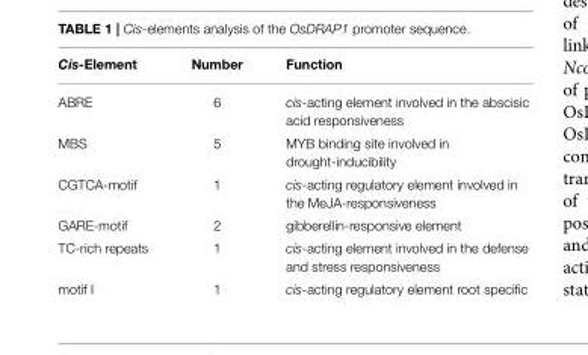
<table><thead><tr><td>Cis-Element</td><td>Number</td><td>Function</td></tr></thead><tbody><tr><td>ABRE</td><td>6</td><td>cis-acting element involved in the abscisic acid responsiveness</td></tr><tr><td>MBS</td><td>5</td><td>MYB binding site involved in drought-inducibility</td></tr><tr><td>CGTCA-motif</td><td>1</td><td>cis-acting regulatory element involved in the MeJA-responsiveness</td></tr><tr><td>GARE-motif</td><td>2</td><td>gibberellin-responsive element</td></tr><tr><td>TC-rich repeats</td><td>1</td><td>cis-acting element involved in the defense and stress responsiveness</td></tr><tr><td>motif I</td><td>1</td><td>cis-acting regulatory element root specific</td></tr></tbody></table>